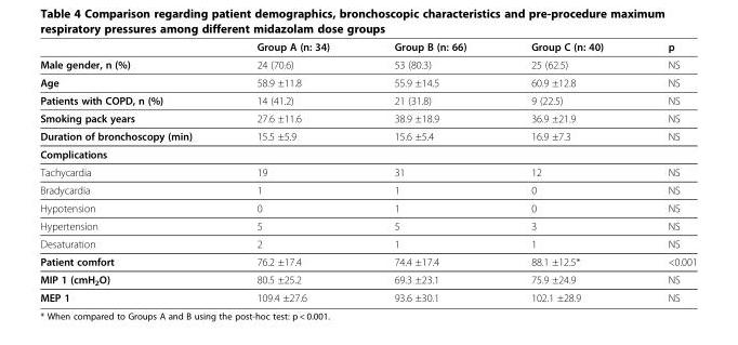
<table><thead><tr><td></td><td>Group A (n: 34)</td><td>Group B (n: 66)</td><td>Group C (n: 40)</td><td>p</td></tr></thead><tbody><tr><td>Male gender, n (%)</td><td>24 (70.6)</td><td>53 (80.3)</td><td>25 (62.5)</td><td>NS</td></tr><tr><td>Age</td><td>58.9 ±11.8</td><td>55.9 ±14.5</td><td>60.9 ±12.8</td><td>NS</td></tr><tr><td>Patients with COPD, n (%)</td><td>14 (41.2)</td><td>21 (31.8)</td><td>9 (22.5)</td><td>NS</td></tr><tr><td>Smoking pack years</td><td>27.6 ±11.6</td><td>38.9 ±18.9</td><td>36.9 ±21.9</td><td>NS</td></tr><tr><td>Duration of bronchoscopy (min)</td><td>15.5 ±5.9</td><td>15.6 ±5.4</td><td>16.9 ±7.3</td><td>NS</td></tr><tr><td colspan="5">Complications</td></tr><tr><td>Tachycardia</td><td>19</td><td>31</td><td>12</td><td>NS</td></tr><tr><td>Bradycardia</td><td>1</td><td>1</td><td>0</td><td>NS</td></tr><tr><td>Hypotension</td><td>0</td><td>1</td><td>0</td><td>NS</td></tr><tr><td>Hypertension</td><td>5</td><td>5</td><td>3</td><td>NS</td></tr><tr><td>Desaturation</td><td>2</td><td>1</td><td>1</td><td>NS</td></tr><tr><td>Patient comfort</td><td>76.2 ±17.4</td><td>74.4 ±17.4</td><td>88.1 ±12.5*</td><td>&lt;0.001</td></tr><tr><td>MIP 1 (cmH<sub>2</sub>O)</td><td>80.5 ±25.2</td><td>69.3 ±23.1</td><td>75.9 ±24.9</td><td>NS</td></tr><tr><td>MEP 1</td><td>109.4 ±27.6</td><td>93.6 ±30.1</td><td>102.1 ±28.9</td><td>NS</td></tr></tbody></table>